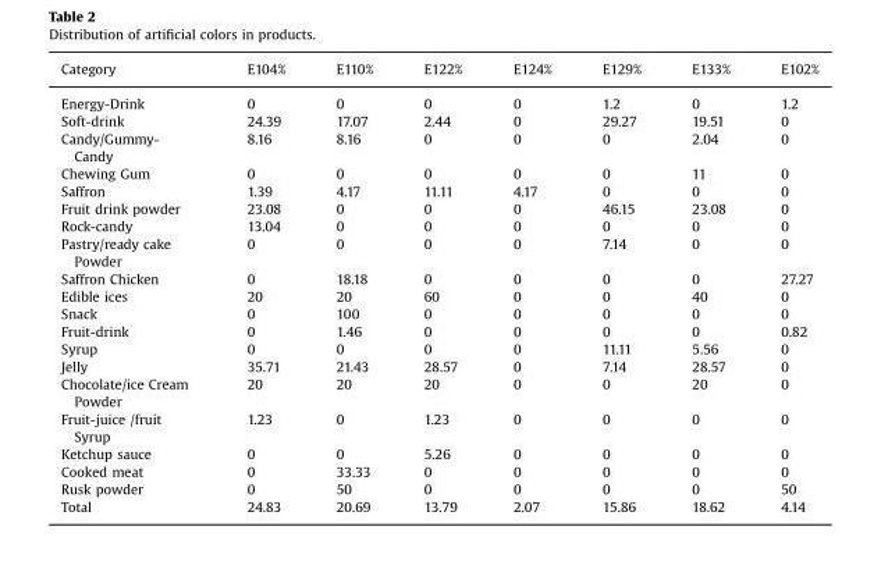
<table><thead><tr><td>Category</td><td>E104%</td><td>E110%</td><td>E122%</td><td>E124%</td><td>E129%</td><td>E133%</td><td>E102%</td></tr></thead><tbody><tr><td>Energy-Drink</td><td>0</td><td>0</td><td>0</td><td>0</td><td>1.2</td><td>0</td><td>1.2</td></tr><tr><td>Soft-drink</td><td>24.39</td><td>17.07</td><td>2.44</td><td>0</td><td>29.27</td><td>19.51</td><td>0</td></tr><tr><td>Candy/Gummy- Candy</td><td>8.16</td><td>8.16</td><td>0</td><td>0</td><td>0</td><td>2.04</td><td>0</td></tr><tr><td>Chewing Gum</td><td>0</td><td>0</td><td>0</td><td>0</td><td>0</td><td>11</td><td>0</td></tr><tr><td>Saffron</td><td>1.39</td><td>4.17</td><td>11.11</td><td>4.17</td><td>0</td><td>0</td><td>0</td></tr><tr><td>Fruit drink powder</td><td>23.08</td><td>0</td><td>0</td><td>0</td><td>46.15</td><td>23.08</td><td>0</td></tr><tr><td>Rock-candy</td><td>13.04</td><td>0</td><td>0</td><td>0</td><td>0</td><td>0</td><td>0</td></tr><tr><td>Pastry/ready cake Powder</td><td>0</td><td>0</td><td>0</td><td>0</td><td>7.14</td><td>0</td><td>0</td></tr><tr><td>Saffron Chicken</td><td>0</td><td>18.18</td><td>0</td><td>0</td><td>0</td><td>0</td><td>27.27</td></tr><tr><td>Edible ices</td><td>20</td><td>20</td><td>60</td><td>0</td><td>0</td><td>40</td><td>0</td></tr><tr><td>Snack</td><td>0</td><td>100</td><td>0</td><td>0</td><td>0</td><td>0</td><td>0</td></tr><tr><td>Fruit-drink</td><td>0</td><td>1.46</td><td>0</td><td>0</td><td>0</td><td>0</td><td>0.82</td></tr><tr><td>Syrup</td><td>0</td><td>0</td><td>0</td><td>0</td><td>11.11</td><td>5.56</td><td>0</td></tr><tr><td>Jelly</td><td>35.71</td><td>21.43</td><td>28.57</td><td>0</td><td>7.14</td><td>28.57</td><td>0</td></tr><tr><td>Chocolate/ice Cream Powder</td><td>20</td><td>20</td><td>20</td><td>0</td><td>0</td><td>20</td><td>0</td></tr><tr><td>Fruit-juice /fruit Syrup</td><td>1.23</td><td>0</td><td>1.23</td><td>0</td><td>0</td><td>0</td><td>0</td></tr><tr><td>Ketchup sauce</td><td>0</td><td>0</td><td>5.26</td><td>0</td><td>0</td><td>0</td><td>0</td></tr><tr><td>Cooked meat</td><td>0</td><td>33.33</td><td>0</td><td>0</td><td>0</td><td>0</td><td>0</td></tr><tr><td>Rusk powder</td><td>0</td><td>50</td><td>0</td><td>0</td><td>0</td><td>0</td><td>50</td></tr><tr><td>Total</td><td>24.83</td><td>20.69</td><td>13.79</td><td>2.07</td><td>15.86</td><td>18.62</td><td>4.14</td></tr></tbody></table>